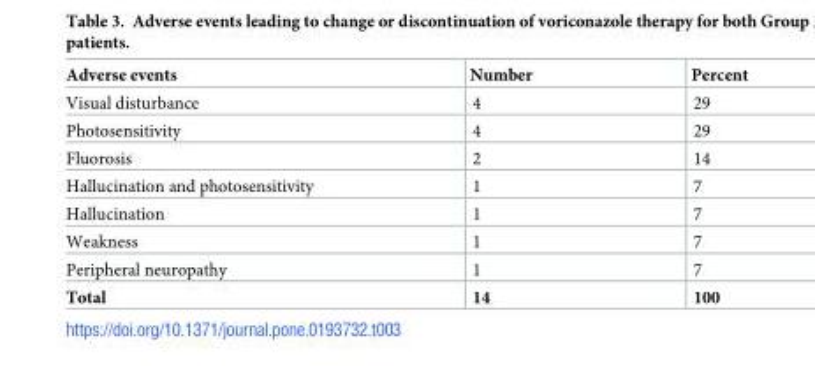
<table><thead><tr><td>Adverse events</td><td>Number</td><td>Percent</td></tr></thead><tbody><tr><td>Visual disturbance</td><td>4</td><td>29</td></tr><tr><td>Photosensitivity</td><td>4</td><td>29</td></tr><tr><td>Fluorosis</td><td>2</td><td>14</td></tr><tr><td>Hallucination and photosensitivity</td><td>1</td><td>7</td></tr><tr><td>Hallucination</td><td>1</td><td>7</td></tr><tr><td>Weakness</td><td>1</td><td>7</td></tr><tr><td>Peripheral neuropathy</td><td>1</td><td>7</td></tr><tr><td>Total</td><td>14</td><td>100</td></tr></tbody></table>